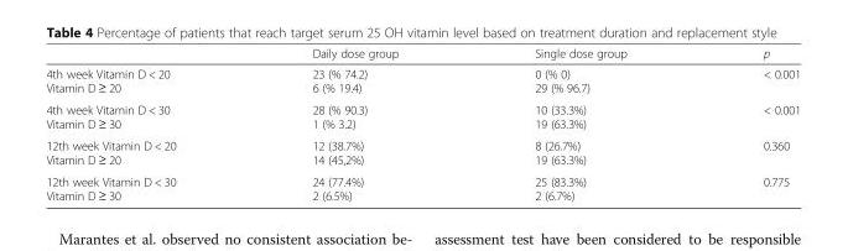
<table><thead><tr><td></td><td>Daily dose group</td><td>Single dose group</td><td>p</td></tr></thead><tbody><tr><td>4th week Vitamin D &lt; 20 Vitamin D ≥ 20</td><td>23 (% 74.2) 6 (% 19.4)</td><td>0 (% 0) 29 (% 96.7)</td><td>&lt; 0.001</td></tr><tr><td>4th week Vitamin D &lt; 30 Vitamin D ≥ 30</td><td>28 (% 90.3) 1 (% 3.2)</td><td>10 (33.3%) 19 (63.3%)</td><td>&lt; 0.001</td></tr><tr><td>12th week Vitamin D &lt; 20 Vitamin D ≥ 20</td><td>12 (38.7%) 14 (45,2%)</td><td>8 (26.7%) 19 (63.3%)</td><td>0.360</td></tr><tr><td>12th week Vitamin D &lt; 30 Vitamin D ≥ 30</td><td>24 (77.4%) 2 (6.5%)</td><td>25 (83.3%) 2 (6.7%)</td><td>0.775</td></tr></tbody></table>